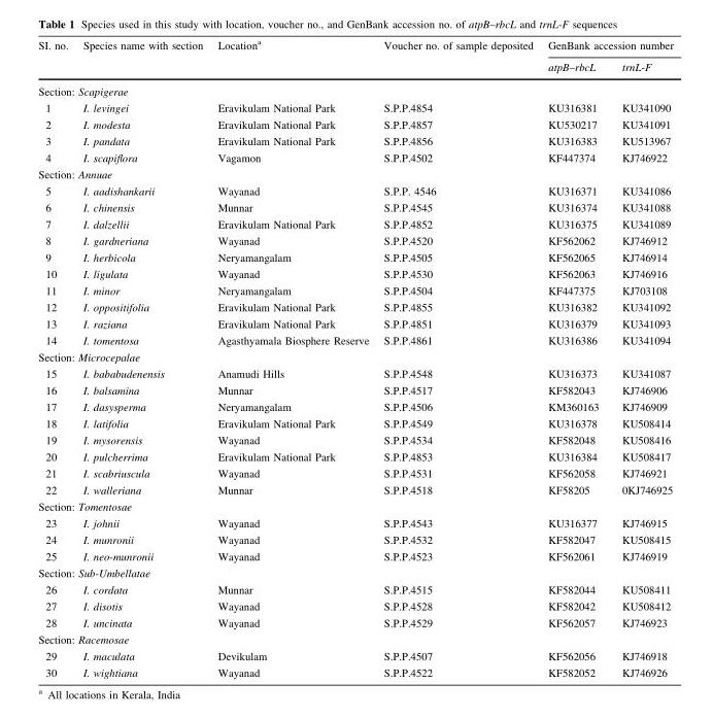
<table><thead><tr><td rowspan="2">SI. no.</td><td rowspan="2">Species name with section</td><td rowspan="2">Location<sup>a</sup></td><td rowspan="2">Voucher no. of sample deposited</td><td colspan="2">GenBank accession number</td></tr><tr><td>atpB–rbcL</td><td>trnL-F</td></tr></thead><tbody><tr><td colspan="6">Section: Scapigerae</td></tr><tr><td>1</td><td>I. levingei</td><td>Eravikulam National Park</td><td>S.P.P.4854</td><td>KU316381</td><td>KU341090</td></tr><tr><td>2</td><td>I. modesta</td><td>Eravikulam National Park</td><td>S.P.P.4857</td><td>KU530217</td><td>KU341091</td></tr><tr><td>3</td><td>I. pandata</td><td>Eravikulam National Park</td><td>S.P.P.4856</td><td>KU316383</td><td>KU513967</td></tr><tr><td>4</td><td>I. scapiflora</td><td>Vagamon</td><td>S.P.P.4502</td><td>KF447374</td><td>KJ746922</td></tr><tr><td colspan="6">Section: Annuae</td></tr><tr><td>5</td><td>I. aadishankarii</td><td>Wayanad</td><td>S.P.P. 4546</td><td>KU316371</td><td>KU341086</td></tr><tr><td>6</td><td>I. chinensis</td><td>Munnar</td><td>S.P.P.4545</td><td>KU316374</td><td>KU341088</td></tr><tr><td>7</td><td>I. dalzellii</td><td>Eravikulam National Park</td><td>S.P.P.4852</td><td>KU316375</td><td>KU341089</td></tr><tr><td>8</td><td>I. gardneriana</td><td>Wayanad</td><td>S.P.P.4520</td><td>KF562062</td><td>KJ746912</td></tr><tr><td>9</td><td>I. herbicola</td><td>Neryamangalam</td><td>S.P.P.4505</td><td>KF562065</td><td>KJ746914</td></tr><tr><td>10</td><td>I. ligulata</td><td>Wayanad</td><td>S.P.P.4530</td><td>KF562063</td><td>KJ746916</td></tr><tr><td>11</td><td>I. minor</td><td>Neryamangalam</td><td>S.P.P.4504</td><td>KF447375</td><td>KJ703108</td></tr><tr><td>12</td><td>I. oppositifolia</td><td>Eravikulam National Park</td><td>S.P.P.4855</td><td>KU316382</td><td>KU341092</td></tr><tr><td>13</td><td>I. raziana</td><td>Eravikulam National Park</td><td>S.P.P.4851</td><td>KU316379</td><td>KU341093</td></tr><tr><td>14</td><td>I. tomentosa</td><td>Agasthyamala Biosphere Reserve</td><td>S.P.P.4861</td><td>KU316386</td><td>KU341094</td></tr><tr><td colspan="6">Section: Microcepalae</td></tr><tr><td>15</td><td>I. bababudenensis</td><td>Anamudi Hills</td><td>S.P.P.4548</td><td>KU316373</td><td>KU341087</td></tr><tr><td>16</td><td>I. balsamina</td><td>Munnar</td><td>S.P.P.4517</td><td>KF582043</td><td>KJ746906</td></tr><tr><td>17</td><td>I. dasysperma</td><td>Neryamangalam</td><td>S.P.P.4506</td><td>KM360163</td><td>KJ746909</td></tr><tr><td>18</td><td>I. latifolia</td><td>Eravikulam National Park</td><td>S.P.P.4549</td><td>KU316378</td><td>KU508414</td></tr><tr><td>19</td><td>I. mysorensis</td><td>Wayanad</td><td>S.P.P.4534</td><td>KF582048</td><td>KU508416</td></tr><tr><td>20</td><td>I. pulcherrima</td><td>Eravikulam National Park</td><td>S.P.P.4853</td><td>KU316384</td><td>KU508417</td></tr><tr><td>21</td><td>I. scabriuscula</td><td>Wayanad</td><td>S.P.P.4531</td><td>KF562058</td><td>KJ746921</td></tr><tr><td>22</td><td>I. walleriana</td><td>Munnar</td><td>S.P.P.4518</td><td>KF58205</td><td>0KJ746925</td></tr><tr><td colspan="6">Section: Tomentosae</td></tr><tr><td>23</td><td>I. johnii</td><td>Wayanad</td><td>S.P.P.4543</td><td>KU316377</td><td>KJ746915</td></tr><tr><td>24</td><td>I. munronii</td><td>Wayanad</td><td>S.P.P.4532</td><td>KF582047</td><td>KU508415</td></tr><tr><td>25</td><td>I. neo-munronii</td><td>Wayanad</td><td>S.P.P.4523</td><td>KF562061</td><td>KJ746919</td></tr><tr><td colspan="6">Section: Sub-Umbellatae</td></tr><tr><td>26</td><td>I. cordata</td><td>Munnar</td><td>S.P.P.4515</td><td>KF582044</td><td>KU508411</td></tr><tr><td>27</td><td>I. disotis</td><td>Wayanad</td><td>S.P.P.4528</td><td>KF582042</td><td>KU508412</td></tr><tr><td>28</td><td>I. uncinata</td><td>Wayanad</td><td>S.P.P.4529</td><td>KF562057</td><td>KJ746923</td></tr><tr><td colspan="6">Section: Racemosae</td></tr><tr><td>29</td><td>I. maculata</td><td>Devikulam</td><td>S.P.P.4507</td><td>KF562056</td><td>KJ746918</td></tr><tr><td>30</td><td>I. wightiana</td><td>Wayanad</td><td>S.P.P.4522</td><td>KF582052</td><td>KJ746926</td></tr></tbody></table>